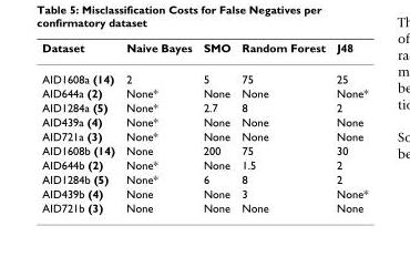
<table><thead><tr><td>Dataset</td><td>Naive Bayes</td><td>SMO</td><td>Random Forest</td><td>J48</td></tr></thead><tbody><tr><td>AID1608a (14)</td><td>2</td><td>5</td><td>75</td><td>25</td></tr><tr><td>AID644a (2)</td><td>None*</td><td>None</td><td>None</td><td>None*</td></tr><tr><td>AID1284a (5)</td><td>None*</td><td>2.7</td><td>8</td><td>2</td></tr><tr><td>AID439a (4)</td><td>None*</td><td>None</td><td>None</td><td>None</td></tr><tr><td>AID721a (3)</td><td>None*</td><td>None</td><td>None</td><td>None</td></tr><tr><td>AID1608b (14)</td><td>None</td><td>200</td><td>75</td><td>30</td></tr><tr><td>AID644b (2)</td><td>None*</td><td>None</td><td>1.5</td><td>2</td></tr><tr><td>AID1284b (5)</td><td>None*</td><td>6</td><td>8</td><td>2</td></tr><tr><td>AID439b (4)</td><td>None</td><td>None</td><td>3</td><td>None*</td></tr><tr><td>AID721b (3)</td><td>None</td><td>None</td><td>None</td><td>None</td></tr></tbody></table>